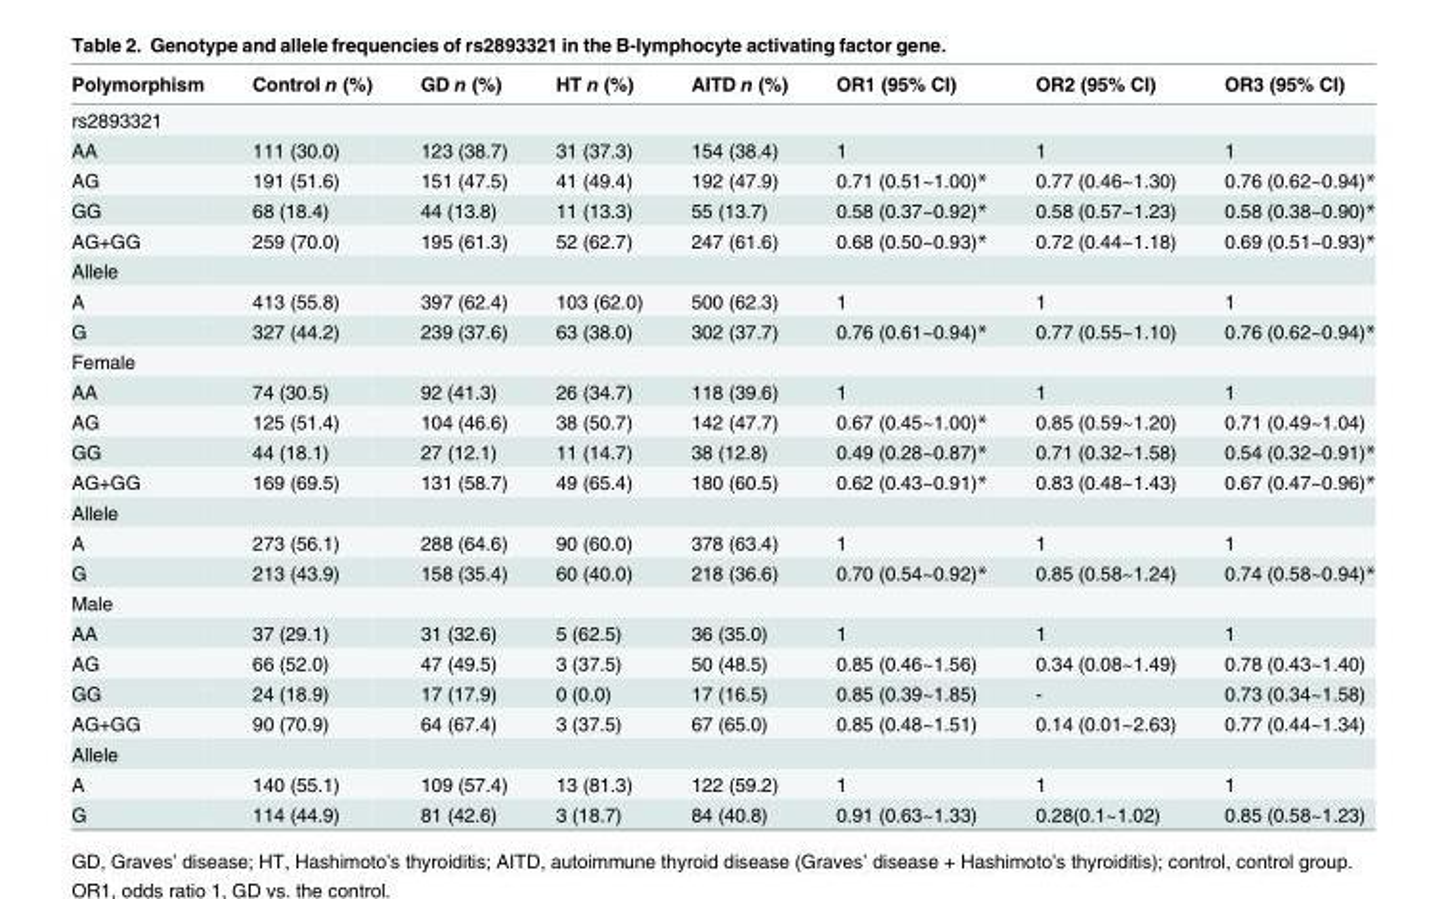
<table><thead><tr><td>Polymorphism</td><td>Control n (%)</td><td>GD n (%)</td><td>HT n (%)</td><td>AITD n (%)</td><td>OR1 (95% CI)</td><td>OR2 (95% CI)</td><td>OR3 (95% CI)</td></tr></thead><tbody><tr><td colspan="8">rs2893321</td></tr><tr><td>AA</td><td>111 (30.0)</td><td>123 (38.7)</td><td>31 (37.3)</td><td>154 (38.4)</td><td>1</td><td>1</td><td>1</td></tr><tr><td>AG</td><td>191 (51.6)</td><td>151 (47.5)</td><td>41 (49.4)</td><td>192 (47.9)</td><td>0.71 (0.51~1.00)*</td><td>0.77 (0.46~1.30)</td><td>0.76 (0.62~0.94)*</td></tr><tr><td>GG</td><td>68 (18.4)</td><td>44 (13.8)</td><td>11 (13.3)</td><td>55 (13.7)</td><td>0.58 (0.37~0.92)*</td><td>0.58 (0.57~1.23)</td><td>0.58 (0.38~0.90)*</td></tr><tr><td>AG+GG</td><td>259 (70.0)</td><td>195 (61.3)</td><td>52 (62.7)</td><td>247 (61.6)</td><td>0.68 (0.50~0.93)*</td><td>0.72 (0.44~1.18)</td><td>0.69 (0.51~0.93)*</td></tr><tr><td colspan="8">Allele</td></tr><tr><td>A</td><td>413 (55.8)</td><td>397 (62.4)</td><td>103 (62.0)</td><td>500 (62.3)</td><td>1</td><td>1</td><td>1</td></tr><tr><td>G</td><td>327 (44.2)</td><td>239 (37.6)</td><td>63 (38.0)</td><td>302 (37.7)</td><td>0.76 (0.61~0.94)*</td><td>0.77 (0.55~1.10)</td><td>0.76 (0.62~0.94)*</td></tr><tr><td colspan="8">Female</td></tr><tr><td>AA</td><td>74 (30.5)</td><td>92 (41.3)</td><td>26 (34.7)</td><td>118 (39.6)</td><td>1</td><td>1</td><td>1</td></tr><tr><td>AG</td><td>125 (51.4)</td><td>104 (46.6)</td><td>38 (50.7)</td><td>142 (47.7)</td><td>0.67 (0.45~1.00)*</td><td>0.85 (0.59~1.20)</td><td>0.71 (0.49~1.04)</td></tr><tr><td>GG</td><td>44 (18.1)</td><td>27 (12.1)</td><td>11 (14.7)</td><td>38 (12.8)</td><td>0.49 (0.28~0.87)*</td><td>0.71 (0.32~1.58)</td><td>0.54 (0.32~0.91)*</td></tr><tr><td>AG+GG</td><td>169 (69.5)</td><td>131 (58.7)</td><td>49 (65.4)</td><td>180 (60.5)</td><td>0.62 (0.43~0.91)*</td><td>0.83 (0.48~1.43)</td><td>0.67 (0.47~0.96)*</td></tr><tr><td colspan="8">Allele</td></tr><tr><td>A</td><td>273 (56.1)</td><td>288 (64.6)</td><td>90 (60.0)</td><td>378 (63.4)</td><td>1</td><td>1</td><td>1</td></tr><tr><td>G</td><td>213 (43.9)</td><td>158 (35.4)</td><td>60 (40.0)</td><td>218 (36.6)</td><td>0.70 (0.54~0.92)*</td><td>0.85 (0.58~1.24)</td><td>0.74 (0.58~0.94)*</td></tr><tr><td colspan="8">Male</td></tr><tr><td>AA</td><td>37 (29.1)</td><td>31 (32.6)</td><td>5 (62.5)</td><td>36 (35.0)</td><td>1</td><td>1</td><td>1</td></tr><tr><td>AG</td><td>66 (52.0)</td><td>47 (49.5)</td><td>3 (37.5)</td><td>50 (48.5)</td><td>0.85 (0.46~1.56)</td><td>0.34 (0.08~1.49)</td><td>0.78 (0.43~1.40)</td></tr><tr><td>GG</td><td>24 (18.9)</td><td>17 (17.9)</td><td>0 (0.0)</td><td>17 (16.5)</td><td>0.85 (0.39~1.85)</td><td>-</td><td>0.73 (0.34~1.58)</td></tr><tr><td>AG+GG</td><td>90 (70.9)</td><td>64 (67.4)</td><td>3 (37.5)</td><td>67 (65.0)</td><td>0.85 (0.48~1.51)</td><td>0.14 (0.01~2.63)</td><td>0.77 (0.44~1.34)</td></tr><tr><td colspan="8">Allele</td></tr><tr><td>A</td><td>140 (55.1)</td><td>109 (57.4)</td><td>13 (81.3)</td><td>122 (59.2)</td><td>1</td><td>1</td><td>1</td></tr><tr><td>G</td><td>114 (44.9)</td><td>81 (42.6)</td><td>3 (18.7)</td><td>84 (40.8)</td><td>0.91 (0.63~1.33)</td><td>0.28(0.1~1.02)</td><td>0.85 (0.58~1.23)</td></tr></tbody></table>